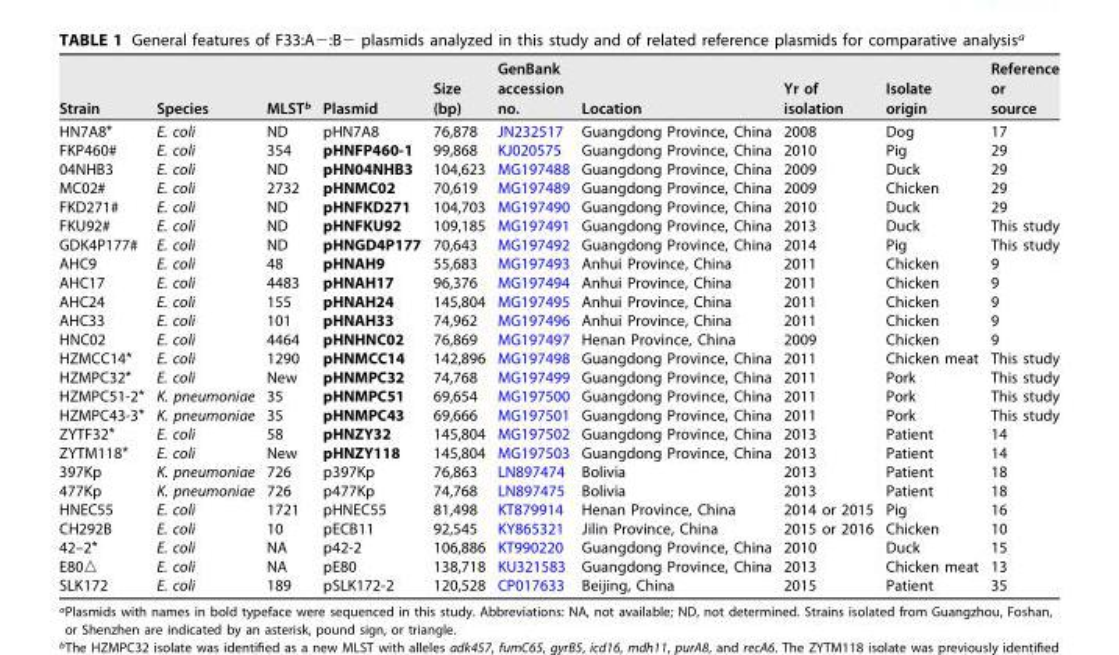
<table><thead><tr><td>Strain</td><td>Species</td><td>MLST<sup>b</sup></td><td>Plasmid</td><td>Size (bp)</td><td>GenBank accession no.</td><td>Location</td><td>Yr of isolation</td><td>Isolate origin</td><td>Reference or source</td></tr></thead><tbody><tr><td>HN7A8*</td><td>E. coli</td><td>ND</td><td>pHN7A8</td><td>76,878</td><td>JN232517</td><td>Guangdong Province, China</td><td>2008</td><td>Dog</td><td>17</td></tr><tr><td>FKP460#</td><td>E. coli</td><td>354</td><td>pHNFP460-1</td><td>99,868</td><td>KJ020575</td><td>Guangdong Province, China</td><td>2010</td><td>Pig</td><td>29</td></tr><tr><td>04NHB3</td><td>E. coli</td><td>ND</td><td>pHN04NHB3</td><td>104,623</td><td>MG197488</td><td>Guangdong Province, China</td><td>2009</td><td>Duck</td><td>29</td></tr><tr><td>MC02#</td><td>E. coli</td><td>2732</td><td>pHNMC02</td><td>70,619</td><td>MG197489</td><td>Guangdong Province, China</td><td>2009</td><td>Chicken</td><td>29</td></tr><tr><td>FKD271#</td><td>E. coli</td><td>ND</td><td>pHNFKD271</td><td>104,703</td><td>MG197490</td><td>Guangdong Province, China</td><td>2010</td><td>Duck</td><td>29</td></tr><tr><td>FKU92#</td><td>E. coli</td><td>ND</td><td>pHNFKU92</td><td>109,185</td><td>MG197491</td><td>Guangdong Province, China</td><td>2013</td><td>Duck</td><td>This study</td></tr><tr><td>GDK4P177#</td><td>E. coli</td><td>ND</td><td>pHNGD4P177</td><td>70,643</td><td>MG197492</td><td>Guangdong Province, China</td><td>2014</td><td>Pig</td><td>This study</td></tr><tr><td>AHC9</td><td>E. coli</td><td>48</td><td>pHNAH9</td><td>55,683</td><td>MG197493</td><td>Anhui Province, China</td><td>2011</td><td>Chicken</td><td>9</td></tr><tr><td>AHC17</td><td>E. coli</td><td>4483</td><td>pHNAH17</td><td>96,376</td><td>MG197494</td><td>Anhui Province, China</td><td>2011</td><td>Chicken</td><td>9</td></tr><tr><td>AHC24</td><td>E. coli</td><td>155</td><td>pHNAH24</td><td>145,804</td><td>MG197495</td><td>Anhui Province, China</td><td>2011</td><td>Chicken</td><td>9</td></tr><tr><td>AHC33</td><td>E. coli</td><td>101</td><td>pHNAH33</td><td>74,962</td><td>MG197496</td><td>Anhui Province, China</td><td>2011</td><td>Chicken</td><td>9</td></tr><tr><td>HNC02</td><td>E. coli</td><td>4464</td><td>pHNHNC02</td><td>76,869</td><td>MG197497</td><td>Henan Province, China</td><td>2009</td><td>Chicken</td><td>9</td></tr><tr><td>HZMCC14*</td><td>E. coli</td><td>1290</td><td>pHNMCC14</td><td>142,896</td><td>MG197498</td><td>Guangdong Province, China</td><td>2011</td><td>Chicken meat</td><td>This study</td></tr><tr><td>HZMPC32*</td><td>E. coli</td><td>New</td><td>pHNMPC32</td><td>74,768</td><td>MG197499</td><td>Guangdong Province, China</td><td>2011</td><td>Pork</td><td>This study</td></tr><tr><td>HZMPC51-2*</td><td>K. pneumoniae</td><td>35</td><td>pHNMPC51</td><td>69,654</td><td>MG197500</td><td>Guangdong Province, China</td><td>2011</td><td>Pork</td><td>This study</td></tr><tr><td>HZMPC43-3*</td><td>K. pneumoniae</td><td>35</td><td>pHNMPC43</td><td>69,666</td><td>MG197501</td><td>Guangdong Province, China</td><td>2011</td><td>Pork</td><td>This study</td></tr><tr><td>ZYTF32*</td><td>E. coli</td><td>58</td><td>pHNZY32</td><td>145,804</td><td>MG197502</td><td>Guangdong Province, China</td><td>2013</td><td>Patient</td><td>14</td></tr><tr><td>ZYTM118*</td><td>E. coli</td><td>New</td><td>pHNZY118</td><td>145,804</td><td>MG197503</td><td>Guangdong Province, China</td><td>2013</td><td>Patient</td><td>14</td></tr><tr><td>397Kp</td><td>K. pneumoniae</td><td>726</td><td>p397Kp</td><td>76,863</td><td>LN897474</td><td>Bolivia</td><td>2013</td><td>Patient</td><td>18</td></tr><tr><td>477Kp</td><td>K. pneumoniae</td><td>726</td><td>p477Kp</td><td>74,768</td><td>LN897475</td><td>Bolivia</td><td>2013</td><td>Patient</td><td>18</td></tr><tr><td>HNEC55</td><td>E. coli</td><td>1721</td><td>pHNEC55</td><td>81,498</td><td>KT879914</td><td>Henan Province, China</td><td>2014 or 2015</td><td>Pig</td><td>16</td></tr><tr><td>CH292B</td><td>E. coli</td><td>10</td><td>pECB11</td><td>92,545</td><td>KY865321</td><td>Jilin Province, China</td><td>2015 or 2016</td><td>Chicken</td><td>10</td></tr><tr><td>42–2*</td><td>E. coli</td><td>NA</td><td>p42-2</td><td>106,886</td><td>KT990220</td><td>Guangdong Province, China</td><td>2010</td><td>Duck</td><td>15</td></tr><tr><td>E80△</td><td>E. coli</td><td>NA</td><td>pE80</td><td>138,718</td><td>KU321583</td><td>Guangdong Province, China</td><td>2013</td><td>Chicken meat</td><td>13</td></tr><tr><td>SLK172</td><td>E. coli</td><td>189</td><td>pSLK172-2</td><td>120,528</td><td>CP017633</td><td>Beijing, China</td><td>2015</td><td>Patient</td><td>35</td></tr></tbody></table>